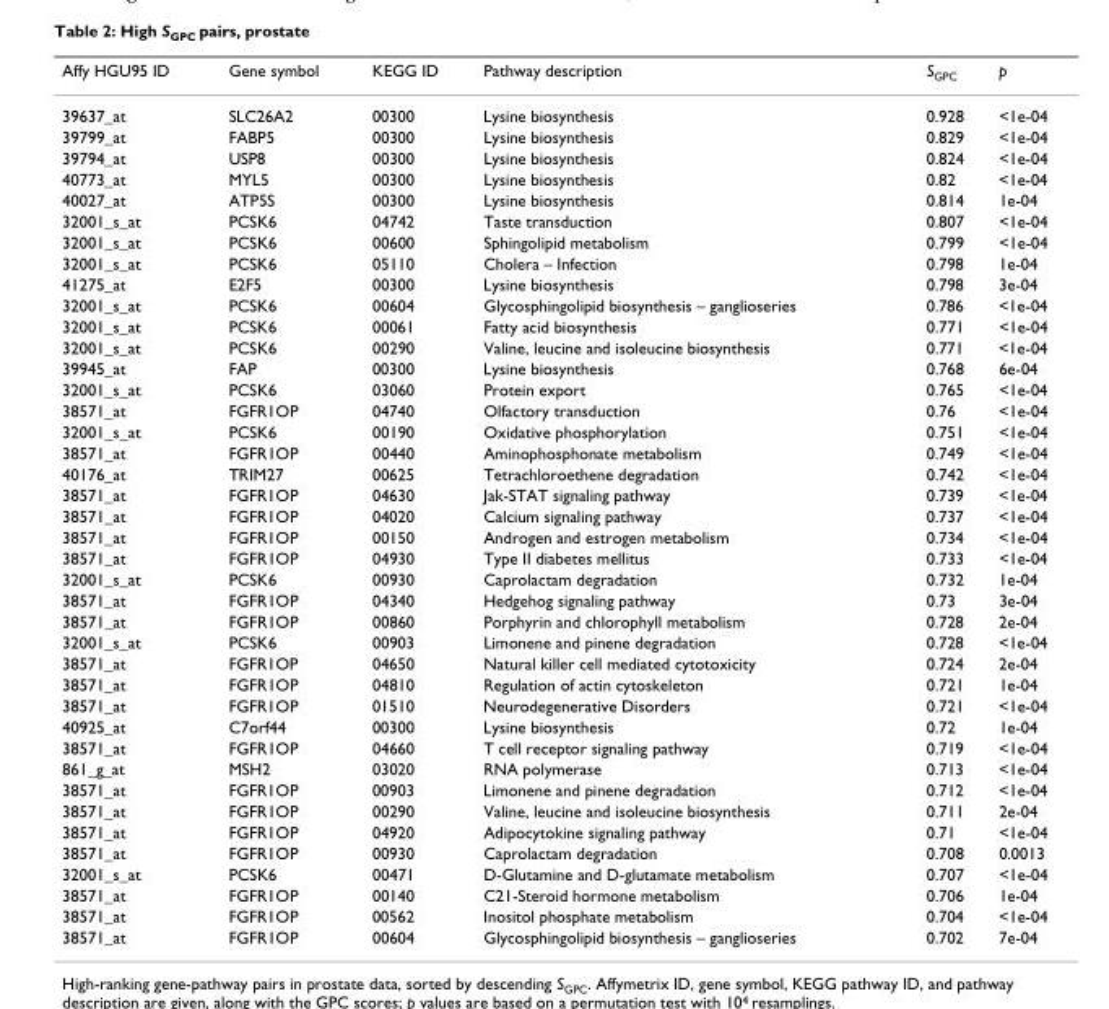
<table><thead><tr><td>Affy HGU95 ID</td><td>Gene symbol</td><td>KEGG ID</td><td>Pathway description</td><td>S<sub>GPC</sub></td><td>p</td></tr></thead><tbody><tr><td>39637_at</td><td>SLC26A2</td><td>00300</td><td>Lysine biosynthesis</td><td>0.928</td><td>&lt;1e-04</td></tr><tr><td>39799_at</td><td>FABP5</td><td>00300</td><td>Lysine biosynthesis</td><td>0.829</td><td>&lt;1e-04</td></tr><tr><td>39794_at</td><td>USP8</td><td>00300</td><td>Lysine biosynthesis</td><td>0.824</td><td>&lt;1e-04</td></tr><tr><td>40773_at</td><td>MYL5</td><td>00300</td><td>Lysine biosynthesis</td><td>0.82</td><td>&lt;1e-04</td></tr><tr><td>40027_at</td><td>ATP5S</td><td>00300</td><td>Lysine biosynthesis</td><td>0.814</td><td>1e-04</td></tr><tr><td>32001_s_at</td><td>PCSK6</td><td>04742</td><td>Taste transduction</td><td>0.807</td><td>&lt;1e-04</td></tr><tr><td>32001_s_at</td><td>PCSK6</td><td>00600</td><td>Sphingolipid metabolism</td><td>0.799</td><td>&lt;1e-04</td></tr><tr><td>32001_s_at</td><td>PCSK6</td><td>05110</td><td>Cholera – Infection</td><td>0.798</td><td>1e-04</td></tr><tr><td>41275_at</td><td>E2F5</td><td>00300</td><td>Lysine biosynthesis</td><td>0.798</td><td>3e-04</td></tr><tr><td>32001_s_at</td><td>PCSK6</td><td>00604</td><td>Glycosphingolipid biosynthesis – ganglioseries</td><td>0.786</td><td>&lt;1e-04</td></tr><tr><td>32001_s_at</td><td>PCSK6</td><td>00061</td><td>Fatty acid biosynthesis</td><td>0.771</td><td>&lt;1e-04</td></tr><tr><td>32001_s_at</td><td>PCSK6</td><td>00290</td><td>Valine, leucine and isoleucine biosynthesis</td><td>0.771</td><td>&lt;1e-04</td></tr><tr><td>39945_at</td><td>FAP</td><td>00300</td><td>Lysine biosynthesis</td><td>0.768</td><td>6e-04</td></tr><tr><td>32001_s_at</td><td>PCSK6</td><td>03060</td><td>Protein export</td><td>0.765</td><td>&lt;1e-04</td></tr><tr><td>38571_at</td><td>FGFR1OP</td><td>04740</td><td>Olfactory transduction</td><td>0.76</td><td>&lt;1e-04</td></tr><tr><td>32001_s_at</td><td>PCSK6</td><td>00190</td><td>Oxidative phosphorylation</td><td>0.751</td><td>&lt;1e-04</td></tr><tr><td>38571_at</td><td>FGFR1OP</td><td>00440</td><td>Aminophosphonate metabolism</td><td>0.749</td><td>&lt;1e-04</td></tr><tr><td>40176_at</td><td>TRIM27</td><td>00625</td><td>Tetrachloroethene degradation</td><td>0.742</td><td>&lt;1e-04</td></tr><tr><td>38571_at</td><td>FGFR1OP</td><td>04630</td><td>Jak-STAT signaling pathway</td><td>0.739</td><td>&lt;1e-04</td></tr><tr><td>38571_at</td><td>FGFR1OP</td><td>04020</td><td>Calcium signaling pathway</td><td>0.737</td><td>&lt;1e-04</td></tr><tr><td>38571_at</td><td>FGFR1OP</td><td>00150</td><td>Androgen and estrogen metabolism</td><td>0.734</td><td>&lt;1e-04</td></tr><tr><td>38571_at</td><td>FGFR1OP</td><td>04930</td><td>Type II diabetes mellitus</td><td>0.733</td><td>&lt;1e-04</td></tr><tr><td>32001_s_at</td><td>PCSK6</td><td>00930</td><td>Caprolactam degradation</td><td>0.732</td><td>1e-04</td></tr><tr><td>38571_at</td><td>FGFR1OP</td><td>04340</td><td>Hedgehog signaling pathway</td><td>0.73</td><td>3e-04</td></tr><tr><td>38571_at</td><td>FGFR1OP</td><td>00860</td><td>Porphyrin and chlorophyll metabolism</td><td>0.728</td><td>2e-04</td></tr><tr><td>32001_s_at</td><td>PCSK6</td><td>00903</td><td>Limonene and pinene degradation</td><td>0.728</td><td>&lt;1e-04</td></tr><tr><td>38571_at</td><td>FGFR1OP</td><td>04650</td><td>Natural killer cell mediated cytotoxicity</td><td>0.724</td><td>2e-04</td></tr><tr><td>38571_at</td><td>FGFR1OP</td><td>04810</td><td>Regulation of actin cytoskeleton</td><td>0.721</td><td>1e-04</td></tr><tr><td>38571_at</td><td>FGFR1OP</td><td>01510</td><td>Neurodegenerative Disorders</td><td>0.721</td><td>&lt;1e-04</td></tr><tr><td>40925_at</td><td>C7orf44</td><td>00300</td><td>Lysine biosynthesis</td><td>0.72</td><td>1e-04</td></tr><tr><td>38571_at</td><td>FGFR1OP</td><td>04660</td><td>T cell receptor signaling pathway</td><td>0.719</td><td>&lt;1e-04</td></tr><tr><td>861_g_at</td><td>MSH2</td><td>03020</td><td>RNA polymerase</td><td>0.713</td><td>&lt;1e-04</td></tr><tr><td>38571_at</td><td>FGFR1OP</td><td>00903</td><td>Limonene and pinene degradation</td><td>0.712</td><td>&lt;1e-04</td></tr><tr><td>38571_at</td><td>FGFR1OP</td><td>00290</td><td>Valine, leucine and isoleucine biosynthesis</td><td>0.711</td><td>2e-04</td></tr><tr><td>38571_at</td><td>FGFR1OP</td><td>04920</td><td>Adipocytokine signaling pathway</td><td>0.71</td><td>&lt;1e-04</td></tr><tr><td>38571_at</td><td>FGFR1OP</td><td>00930</td><td>Caprolactam degradation</td><td>0.708</td><td>0.0013</td></tr><tr><td>32001_s_at</td><td>PCSK6</td><td>00471</td><td>D-Glutamine and D-glutamate metabolism</td><td>0.707</td><td>&lt;1e-04</td></tr><tr><td>38571_at</td><td>FGFR1OP</td><td>00140</td><td>C21-Steroid hormone metabolism</td><td>0.706</td><td>1e-04</td></tr><tr><td>38571_at</td><td>FGFR1OP</td><td>00562</td><td>Inositol phosphate metabolism</td><td>0.704</td><td>&lt;1e-04</td></tr><tr><td>38571_at</td><td>FGFR1OP</td><td>00604</td><td>Glycosphingolipid biosynthesis – ganglioseries</td><td>0.702</td><td>7e-04</td></tr></tbody></table>